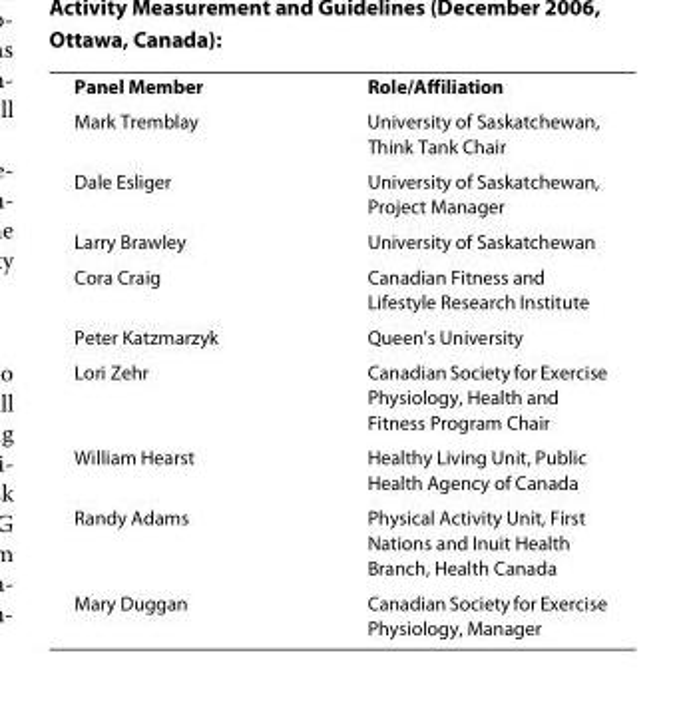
<table><tbody><tr><td>Panel Member</td><td>Role/Affiliation</td></tr><tr><td>Mark Tremblay</td><td>University of Saskatchewan, Think Tank Chair</td></tr><tr><td>Dale Esliger</td><td>University of Saskatchewan, Project Manager</td></tr><tr><td>Larry Brawley</td><td>University of Saskatchewan</td></tr><tr><td>Cora Craig</td><td>Canadian Fitness and Lifestyle Research Institute</td></tr><tr><td>Peter Katzmarzyk</td><td>Queen&#x27;s University</td></tr><tr><td>Lori Zehr</td><td>Canadian Society for Exercise Physiology, Health and Fitness Program Chair</td></tr><tr><td>William Hearst</td><td>Healthy Living Unit, Public Health Agency of Canada</td></tr><tr><td>Randy Adams</td><td>Physical Activity Unit, First Nations and Inuit Health Branch, Health Canada</td></tr><tr><td>Mary Duggan</td><td>Canadian Society for Exercise Physiology, Manager</td></tr></tbody></table>